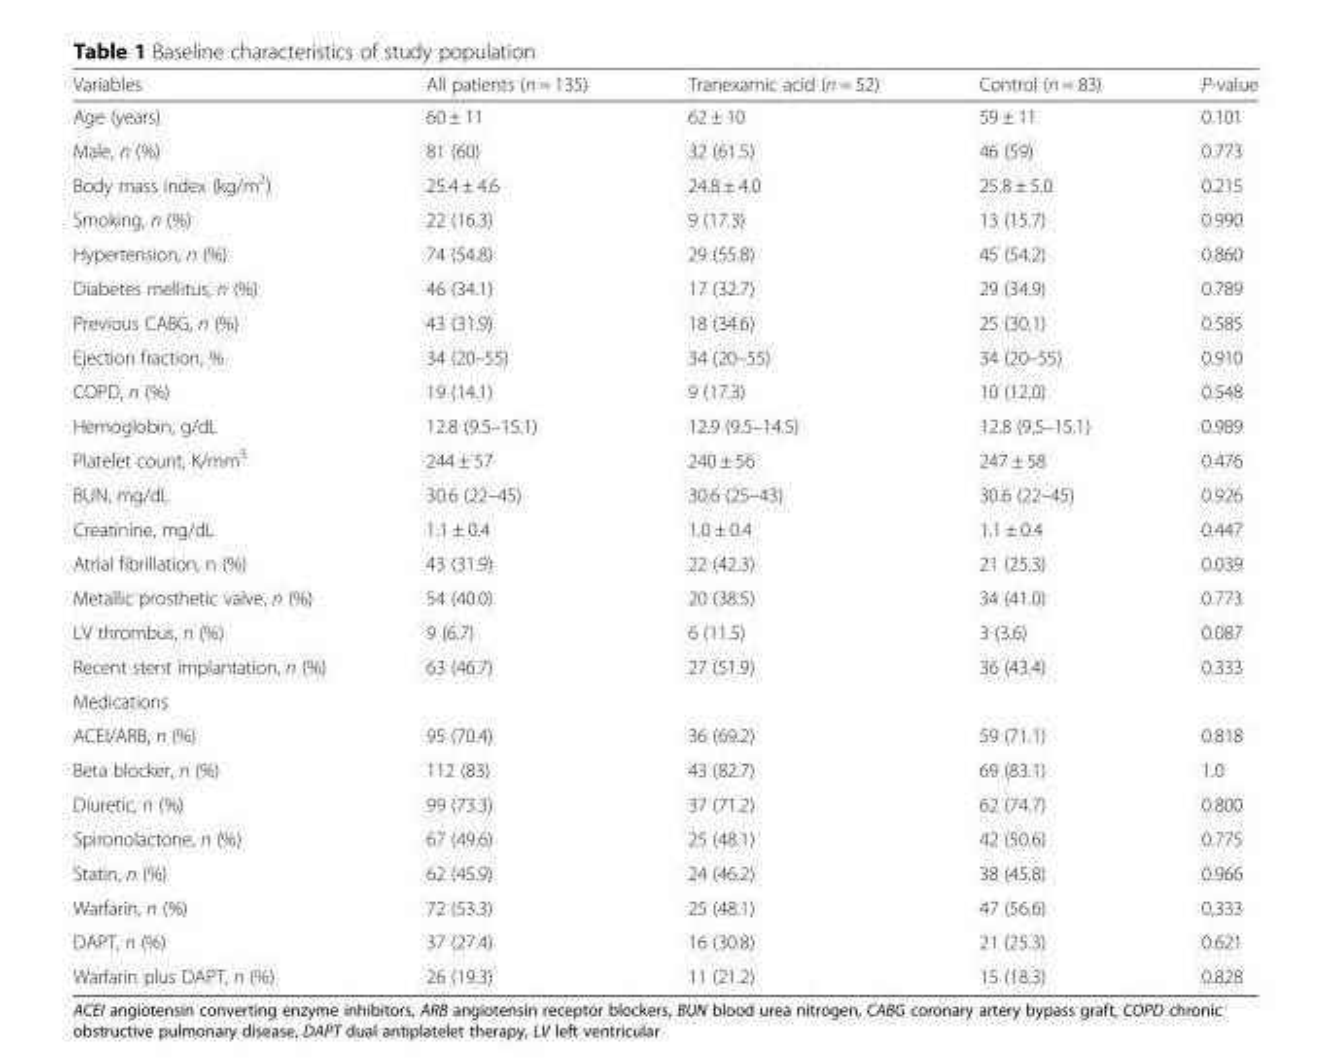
<table><thead><tr><td>Variables</td><td>All patients (n = 135)</td><td>Tranexamic acid (n = 52)</td><td>Control (n = 83)</td><td>P-value</td></tr></thead><tbody><tr><td>Age (years)</td><td>60 ± 11</td><td>62 ± 10</td><td>59 ± 11</td><td>0.101</td></tr><tr><td>Male, n (%)</td><td>81 (60)</td><td>32 (61.5)</td><td>46 (59)</td><td>0.773</td></tr><tr><td>Body mass index (kg/m<sup>2</sup>)</td><td>25.4 ± 4.6</td><td>24.8 ± 4.0</td><td>25.8 ± 5.0</td><td>0.215</td></tr><tr><td>Smoking, n (%)</td><td>22 (16.3)</td><td>9 (17.3)</td><td>13 (15.7)</td><td>0.990</td></tr><tr><td>Hypertension, n (%)</td><td>74 (54.8)</td><td>29 (55.8)</td><td>45 (54.2)</td><td>0.860</td></tr><tr><td>Diabetes mellitus, n (%)</td><td>46 (34.1)</td><td>17 (32.7)</td><td>29 (34.9)</td><td>0.789</td></tr><tr><td>Previous CABG, n (%)</td><td>43 (31.9)</td><td>18 (34.6)</td><td>25 (30.1)</td><td>0.585</td></tr><tr><td>Ejection fraction, %</td><td>34 (20–55)</td><td>34 (20–55)</td><td>34 (20–55)</td><td>0.910</td></tr><tr><td>COPD, n (%)</td><td>19 (14.1)</td><td>9 (17.3)</td><td>10 (12.0)</td><td>0.548</td></tr><tr><td>Hemoglobin, g/dL</td><td>12.8 (9.5–15.1)</td><td>12.9 (9.5–14.5)</td><td>12.8 (9.5–15.1)</td><td>0.989</td></tr><tr><td>Platelet count, K/mm<sup>3</sup></td><td>244 ± 57</td><td>240 ± 56</td><td>247 ± 58</td><td>0.476</td></tr><tr><td>BUN, mg/dL</td><td>30.6 (22–45)</td><td>30.6 (25–43)</td><td>30.6 (22–45)</td><td>0.926</td></tr><tr><td>Creatinine, mg/dL</td><td>1.1 ± 0.4</td><td>1.0 ± 0.4</td><td>1.1 ± 0.4</td><td>0.447</td></tr><tr><td>Atrial fibrillation, n (%)</td><td>43 (31.9)</td><td>22 (42.3)</td><td>21 (25.3)</td><td>0.039</td></tr><tr><td>Metallic prosthetic valve, n (%)</td><td>54 (40.0)</td><td>20 (38.5)</td><td>34 (41.0)</td><td>0.773</td></tr><tr><td>LV thrombus, n (%)</td><td>9 (6.7)</td><td>6 (11.5)</td><td>3 (3.6)</td><td>0.087</td></tr><tr><td>Recent stent implantation, n (%)</td><td>63 (46.7)</td><td>27 (51.9)</td><td>36 (43.4)</td><td>0.333</td></tr><tr><td colspan="5">Medications</td></tr><tr><td>ACEI/ARB, n (%)</td><td>95 (70.4)</td><td>36 (69.2)</td><td>59 (71.1)</td><td>0.818</td></tr><tr><td>Beta blocker, n (%)</td><td>112 (83)</td><td>43 (82.7)</td><td>69 (83.1)</td><td>1.0</td></tr><tr><td>Diuretic, n (%)</td><td>99 (73.3)</td><td>37 (71.2)</td><td>62 (74.7)</td><td>0.800</td></tr><tr><td>Spironolactone, n (%)</td><td>67 (49.6)</td><td>25 (48.1)</td><td>42 (50.6)</td><td>0.775</td></tr><tr><td>Statin, n (%)</td><td>62 (45.9)</td><td>24 (46.2)</td><td>38 (45.8)</td><td>0.966</td></tr><tr><td>Warfarin, n (%)</td><td>72 (53.3)</td><td>25 (48.1)</td><td>47 (56.6)</td><td>0,333</td></tr><tr><td>DAPT, n (%)</td><td>37 (27.4)</td><td>16 (30.8)</td><td>21 (25.3)</td><td>0.621</td></tr><tr><td>Warfarin plus DAPT, n (%)</td><td>26 (19.3)</td><td>11 (21.2)</td><td>15 (18.3)</td><td>0.828</td></tr></tbody></table>